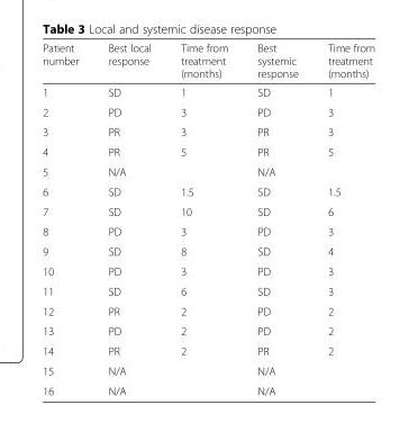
<table><thead><tr><td>Patient number</td><td>Best local response</td><td>Time from treatment (months)</td><td>Best systemic response</td><td>Time from treatment (months)</td></tr></thead><tbody><tr><td>1</td><td>SD</td><td>1</td><td>SD</td><td>1</td></tr><tr><td>2</td><td>PD</td><td>3</td><td>PD</td><td>3</td></tr><tr><td>3</td><td>PR</td><td>3</td><td>PR</td><td>3</td></tr><tr><td>4</td><td>PR</td><td>5</td><td>PR</td><td>5</td></tr><tr><td>5</td><td>N/A</td><td></td><td>N/A</td><td></td></tr><tr><td>6</td><td>SD</td><td>1.5</td><td>SD</td><td>1.5</td></tr><tr><td>7</td><td>SD</td><td>10</td><td>SD</td><td>6</td></tr><tr><td>8</td><td>PD</td><td>3</td><td>PD</td><td>3</td></tr><tr><td>9</td><td>SD</td><td>8</td><td>SD</td><td>4</td></tr><tr><td>10</td><td>PD</td><td>3</td><td>PD</td><td>3</td></tr><tr><td>11</td><td>SD</td><td>6</td><td>SD</td><td>3</td></tr><tr><td>12</td><td>PR</td><td>2</td><td>PD</td><td>2</td></tr><tr><td>13</td><td>PD</td><td>2</td><td>PD</td><td>2</td></tr><tr><td>14</td><td>PR</td><td>2</td><td>PR</td><td>2</td></tr><tr><td>15</td><td>N/A</td><td></td><td>N/A</td><td></td></tr><tr><td>16</td><td>N/A</td><td></td><td>N/A</td><td></td></tr></tbody></table>